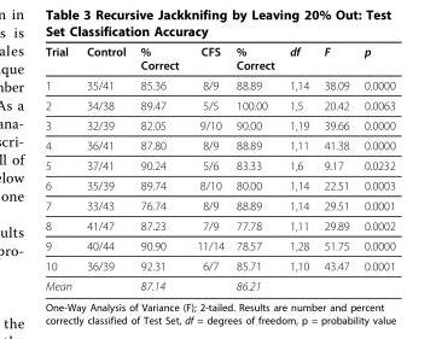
<table><thead><tr><td>Trial</td><td>Control</td><td>% Correct</td><td>CFS</td><td>% Correct</td><td>df</td><td>F</td><td>p</td></tr></thead><tbody><tr><td>1</td><td>35/41</td><td>85.36</td><td>8/9</td><td>88.89</td><td>1,14</td><td>38.09</td><td>0.0000</td></tr><tr><td>2</td><td>34/38</td><td>89.47</td><td>5/5</td><td>100.00</td><td>1,5</td><td>20.42</td><td>0.0063</td></tr><tr><td>3</td><td>32/39</td><td>82.05</td><td>9/10</td><td>90.00</td><td>1,19</td><td>39.66</td><td>0.0000</td></tr><tr><td>4</td><td>36/41</td><td>87.80</td><td>8/9</td><td>88.89</td><td>1,11</td><td>41.38</td><td>0.0000</td></tr><tr><td>5</td><td>37/41</td><td>90.24</td><td>5/6</td><td>83.33</td><td>1,6</td><td>9.17</td><td>0.0232</td></tr><tr><td>6</td><td>35/39</td><td>89.74</td><td>8/10</td><td>80.00</td><td>1,14</td><td>22.51</td><td>0.0003</td></tr><tr><td>7</td><td>33/43</td><td>76.74</td><td>8/9</td><td>88.89</td><td>1,14</td><td>29.51</td><td>0.0001</td></tr><tr><td>8</td><td>41/47</td><td>87.23</td><td>7/9</td><td>77.78</td><td>1,11</td><td>29.89</td><td>0.0002</td></tr><tr><td>9</td><td>40/44</td><td>90.90</td><td>11/14</td><td>78.57</td><td>1,28</td><td>51.75</td><td>0.0000</td></tr><tr><td>10</td><td>36/39</td><td>92.31</td><td>6/7</td><td>85.71</td><td>1,10</td><td>43.47</td><td>0.0001</td></tr><tr><td>Mean</td><td></td><td>87.14</td><td></td><td>86.21</td><td></td><td></td><td></td></tr></tbody></table>